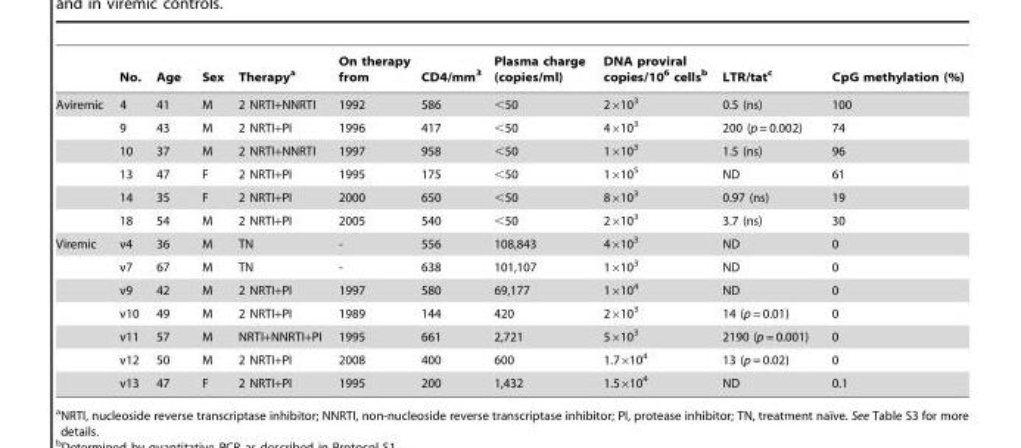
<table><thead><tr><td></td><td>No.</td><td>Age</td><td>Sex</td><td>Therapy<sup>a</sup></td><td>On therapy from</td><td>CD4/mm<sup>3</sup></td><td>Plasma charge (copies/ml)</td><td>DNA proviral copies/10<sup>6</sup> cells<sup>b</sup></td><td>LTR/tat<sup>c</sup></td><td>CpG methylation (%)</td></tr></thead><tbody><tr><td rowspan="6">Aviremic</td><td>4</td><td>41</td><td>M</td><td>2 NRTI+NNRTI</td><td>1992</td><td>586</td><td>&lt;50</td><td>2×10<sup>3</sup></td><td>0.5 (ns)</td><td>100</td></tr><tr><td>9</td><td>43</td><td>M</td><td>2 NRTI+PI</td><td>1996</td><td>417</td><td>&lt;50</td><td>4×10<sup>3</sup></td><td>200 (p = 0.002)</td><td>74</td></tr><tr><td>10</td><td>37</td><td>M</td><td>2 NRTI+NNRTI</td><td>1997</td><td>958</td><td>&lt;50</td><td>1×10<sup>3</sup></td><td>1.5 (ns)</td><td>96</td></tr><tr><td>13</td><td>47</td><td>F</td><td>2 NRTI+PI</td><td>1995</td><td>175</td><td>&lt;50</td><td>1×10<sup>5</sup></td><td>ND</td><td>61</td></tr><tr><td>14</td><td>35</td><td>F</td><td>2 NRTI+PI</td><td>2000</td><td>650</td><td>&lt;50</td><td>8×10<sup>3</sup></td><td>0.97 (ns)</td><td>19</td></tr><tr><td>18</td><td>54</td><td>M</td><td>2 NRTI+PI</td><td>2005</td><td>540</td><td>&lt;50</td><td>2×10<sup>3</sup></td><td>3.7 (ns)</td><td>30</td></tr><tr><td rowspan="7">Viremic</td><td>v4</td><td>36</td><td>M</td><td>TN</td><td>-</td><td>556</td><td>108,843</td><td>4×10<sup>3</sup></td><td>ND</td><td>0</td></tr><tr><td>v7</td><td>67</td><td>M</td><td>TN</td><td>-</td><td>638</td><td>101,107</td><td>1×10<sup>3</sup></td><td>ND</td><td>0</td></tr><tr><td>v9</td><td>42</td><td>M</td><td>2 NRTI+PI</td><td>1997</td><td>580</td><td>69,177</td><td>1×10<sup>4</sup></td><td>ND</td><td>0</td></tr><tr><td>v10</td><td>49</td><td>M</td><td>2 NRTI+PI</td><td>1989</td><td>144</td><td>420</td><td>2×10<sup>3</sup></td><td>14 (p = 0.01)</td><td>0</td></tr><tr><td>v11</td><td>57</td><td>M</td><td>NRTI+NNRTI+PI</td><td>1995</td><td>661</td><td>2,721</td><td>5×10<sup>3</sup></td><td>2190 (p = 0.001)</td><td>0</td></tr><tr><td>v12</td><td>50</td><td>M</td><td>2 NRTI+PI</td><td>2008</td><td>400</td><td>600</td><td>1.7×10<sup>4</sup></td><td>13 (p = 0.02)</td><td>0</td></tr><tr><td>v13</td><td>47</td><td>F</td><td>2 NRTI+PI</td><td>1995</td><td>200</td><td>1,432</td><td>1.5×10<sup>4</sup></td><td>ND</td><td>0.1</td></tr></tbody></table>